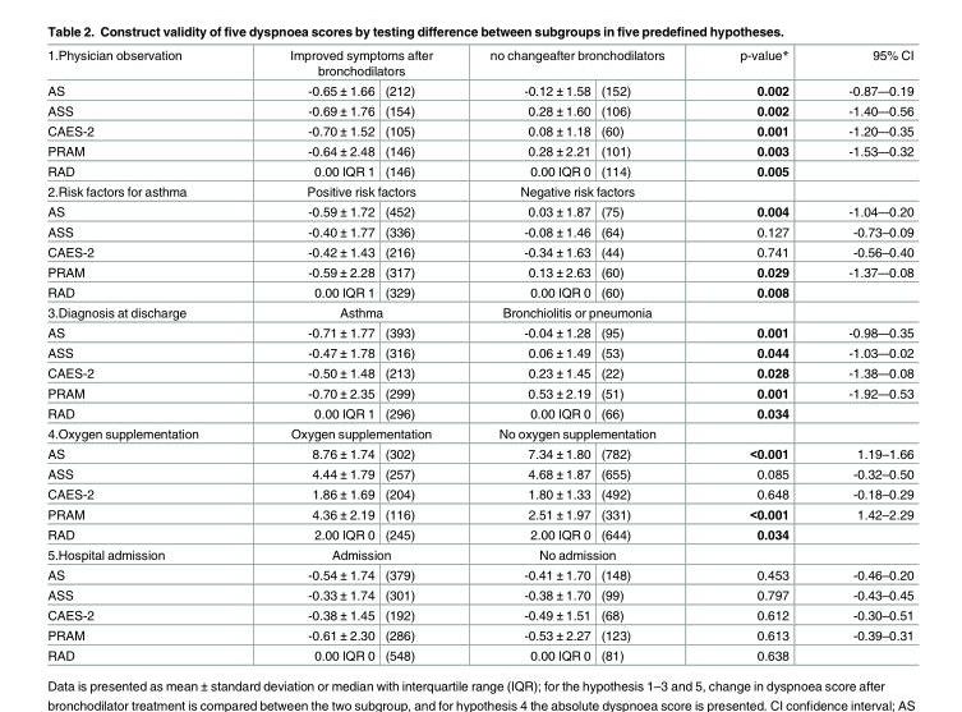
<table><tbody><tr><td>1.Physician observation</td><td colspan="2">Improved symptoms after bronchodilators</td><td colspan="2">no changeafter bronchodilators</td><td>p-value*</td><td>95% CI</td></tr><tr><td>AS</td><td>-0.65 ± 1.66</td><td>(212)</td><td>-0.12 ± 1.58</td><td>(152)</td><td>0.002</td><td>-0.87–-0.19</td></tr><tr><td>ASS</td><td>-0.69 ± 1.76</td><td>(154)</td><td>0.28 ± 1.60</td><td>(106)</td><td>0.002</td><td>-1.40–-0.56</td></tr><tr><td>CAES-2</td><td>-0.70 ± 1.52</td><td>(105)</td><td>0.08 ± 1.18</td><td>(60)</td><td>0.001</td><td>-1.20–-0.35</td></tr><tr><td>PRAM</td><td>-0.64 ± 2.48</td><td>(146)</td><td>0.28 ± 2.21</td><td>(101)</td><td>0.003</td><td>-1.53–-0.32</td></tr><tr><td>RAD</td><td>0.00 IQR 1</td><td>(146)</td><td>0.00 IQR 0</td><td>(114)</td><td>0.005</td><td></td></tr><tr><td>2.Risk factors for asthma</td><td colspan="2">Positive risk factors</td><td colspan="2">Negative risk factors</td><td></td><td></td></tr><tr><td>AS</td><td>-0.59 ± 1.72</td><td>(452)</td><td>0.03 ± 1.87</td><td>(75)</td><td>0.004</td><td>-1.04–-0.20</td></tr><tr><td>ASS</td><td>-0.40 ± 1.77</td><td>(336)</td><td>-0.08 ± 1.46</td><td>(64)</td><td>0.127</td><td>-0.73–0.09</td></tr><tr><td>CAES-2</td><td>-0.42 ± 1.43</td><td>(216)</td><td>-0.34 ± 1.63</td><td>(44)</td><td>0.741</td><td>-0.56–0.40</td></tr><tr><td>PRAM</td><td>-0.59 ± 2.28</td><td>(317)</td><td>0.13 ± 2.63</td><td>(60)</td><td>0.029</td><td>-1.37–-0.08</td></tr><tr><td>RAD</td><td>0.00 IQR 1</td><td>(329)</td><td>0.00 IQR 0</td><td>(60)</td><td>0.008</td><td></td></tr><tr><td>3.Diagnosis at discharge</td><td colspan="2">Asthma</td><td colspan="2">Bronchiolitis or pneumonia</td><td></td><td></td></tr><tr><td>AS</td><td>-0.71 ± 1.77</td><td>(393)</td><td>-0.04 ± 1.28</td><td>(95)</td><td>0.001</td><td>-0.98–-0.35</td></tr><tr><td>ASS</td><td>-0.47 ± 1.78</td><td>(316)</td><td>0.06 ± 1.49</td><td>(53)</td><td>0.044</td><td>-1.03–-0.02</td></tr><tr><td>CAES-2</td><td>-0.50 ± 1.48</td><td>(213)</td><td>0.23 ± 1.45</td><td>(22)</td><td>0.028</td><td>-1.38–-0.08</td></tr><tr><td>PRAM</td><td>-0.70 ± 2.35</td><td>(299)</td><td>0.53 ± 2.19</td><td>(51)</td><td>0.001</td><td>-1.92–-0.53</td></tr><tr><td>RAD</td><td>0.00 IQR 1</td><td>(296)</td><td>0.00 IQR 0</td><td>(66)</td><td>0.034</td><td></td></tr><tr><td>4.Oxygen supplementation</td><td colspan="2">Oxygen supplementation</td><td colspan="2">No oxygen supplementation</td><td></td><td></td></tr><tr><td>AS</td><td>8.76 ± 1.74</td><td>(302)</td><td>7.34 ± 1.80</td><td>(782)</td><td>&lt;0.001</td><td>1.19–1.66</td></tr><tr><td>ASS</td><td>4.44 ± 1.79</td><td>(257)</td><td>4.68 ± 1.87</td><td>(655)</td><td>0.085</td><td>-0.32–0.50</td></tr><tr><td>CAES-2</td><td>1.86 ± 1.69</td><td>(204)</td><td>1.80 ± 1.33</td><td>(492)</td><td>0.648</td><td>-0.18–0.29</td></tr><tr><td>PRAM</td><td>4.36 ± 2.19</td><td>(116)</td><td>2.51 ± 1.97</td><td>(331)</td><td>&lt;0.001</td><td>1.42–2.29</td></tr><tr><td>RAD</td><td>2.00 IQR 0</td><td>(245)</td><td>2.00 IQR 0</td><td>(644)</td><td>0.034</td><td></td></tr><tr><td>5.Hospital admission</td><td colspan="2">Admission</td><td colspan="2">No admission</td><td></td><td></td></tr><tr><td>AS</td><td>-0.54 ± 1.74</td><td>(379)</td><td>-0.41 ± 1.70</td><td>(148)</td><td>0.453</td><td>-0.46–0.20</td></tr><tr><td>ASS</td><td>-0.33 ± 1.74</td><td>(301)</td><td>-0.38 ± 1.70</td><td>(99)</td><td>0.797</td><td>-0.43–0.45</td></tr><tr><td>CAES-2</td><td>-0.38 ± 1.45</td><td>(192)</td><td>-0.49 ± 1.51</td><td>(68)</td><td>0.612</td><td>-0.30–0.51</td></tr><tr><td>PRAM</td><td>-0.61 ± 2.30</td><td>(286)</td><td>-0.53 ± 2.27</td><td>(123)</td><td>0.613</td><td>-0.39–0.31</td></tr><tr><td>RAD</td><td>0.00 IQR 0</td><td>(548)</td><td>0.00 IQR 0</td><td>(81)</td><td>0.638</td><td></td></tr></tbody></table>